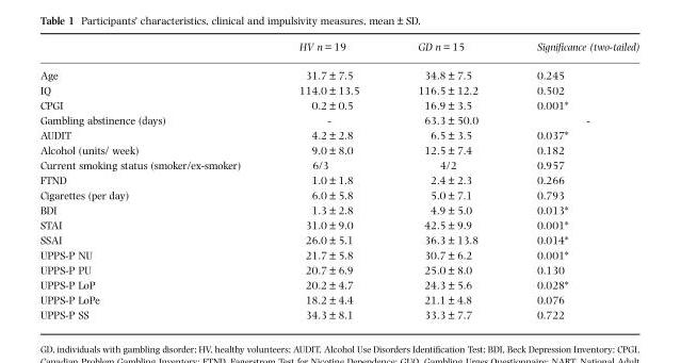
<table><thead><tr><td></td><td>HV n = 19</td><td>GD n = 15</td><td>Significance (two-tailed)</td></tr></thead><tbody><tr><td>Age</td><td>31.7 ± 7.5</td><td>34.8 ± 7.5</td><td>0.245</td></tr><tr><td>IQ</td><td>114.0 ± 13.5</td><td>116.5 ± 12.2</td><td>0.502</td></tr><tr><td>CPGI</td><td>0.2 ± 0.5</td><td>16.9 ± 3.5</td><td>0.001*</td></tr><tr><td>Gambling abstinence (days)</td><td>-</td><td>63.3 ± 50.0</td><td>-</td></tr><tr><td>AUDIT</td><td>4.2 ± 2.8</td><td>6.5 ± 3.5</td><td>0.037*</td></tr><tr><td>Alcohol (units/ week)</td><td>9.0 ± 8.0</td><td>12.5 ± 7.4</td><td>0.182</td></tr><tr><td>Current smoking status (smoker/ex-smoker)</td><td>6/3</td><td>4/2</td><td>0.957</td></tr><tr><td>FTND</td><td>1.0 ± 1.8</td><td>2.4 ± 2.3</td><td>0.266</td></tr><tr><td>Cigarettes (per day)</td><td>6.0 ± 5.8</td><td>5.0 ± 7.1</td><td>0.793</td></tr><tr><td>BDI</td><td>1.3 ± 2.8</td><td>4.9 ± 5.0</td><td>0.013*</td></tr><tr><td>STAI</td><td>31.0 ± 9.0</td><td>42.5 ± 9.9</td><td>0.001*</td></tr><tr><td>SSAI</td><td>26.0 ± 5.1</td><td>36.3 ± 13.8</td><td>0.014*</td></tr><tr><td>UPPS-P NU</td><td>21.7 ± 5.8</td><td>30.7 ± 6.2</td><td>0.001*</td></tr><tr><td>UPPS-P PU</td><td>20.7 ± 6.9</td><td>25.0 ± 8.0</td><td>0.130</td></tr><tr><td>UPPS-P LoP</td><td>20.2 ± 4.7</td><td>24.3 ± 5.6</td><td>0.028*</td></tr><tr><td>UPPS-P LoPe</td><td>18.2 ± 4.4</td><td>21.1 ± 4.8</td><td>0.076</td></tr><tr><td>UPPS-P SS</td><td>34.3 ± 8.1</td><td>33.3 ± 7.7</td><td>0.722</td></tr></tbody></table>